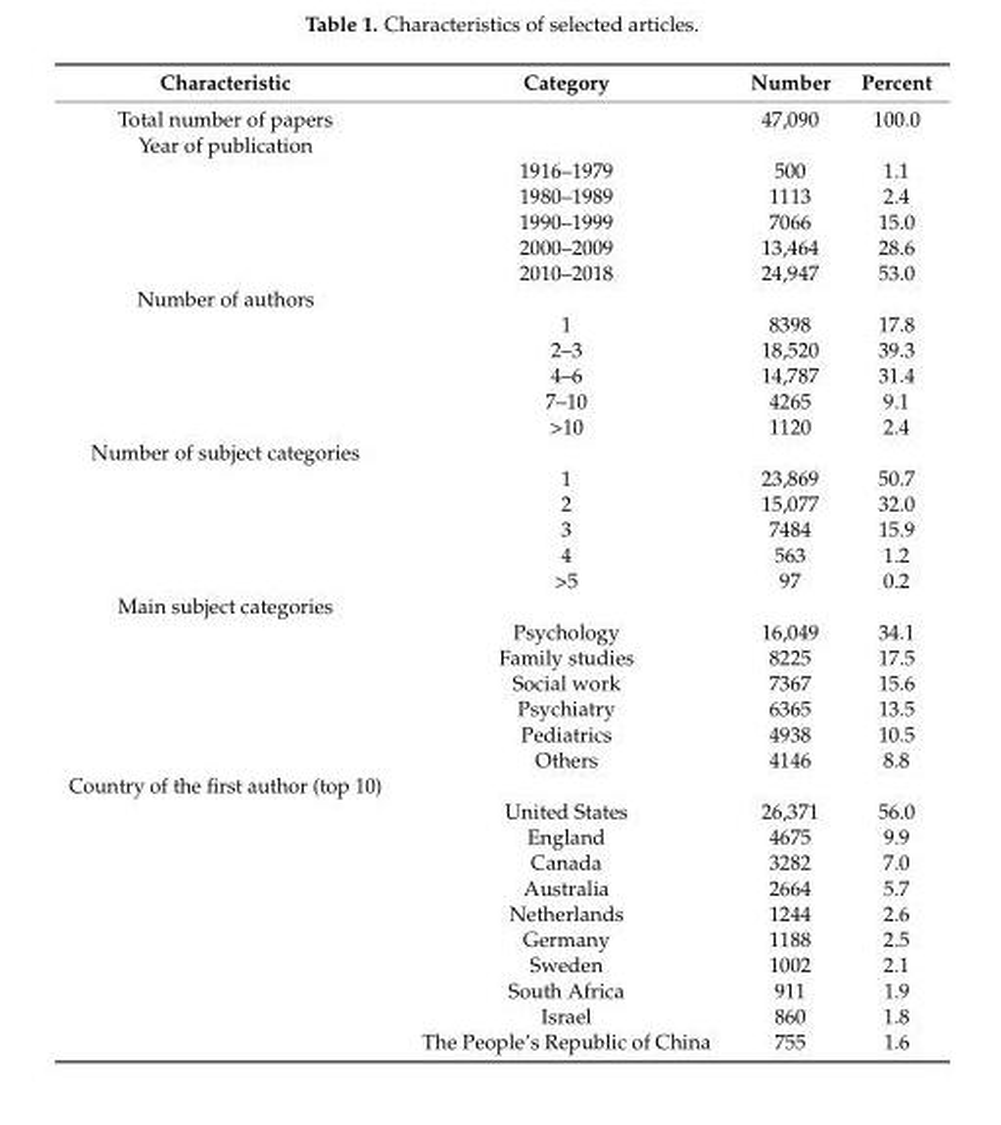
<table><thead><tr><td>Characteristic</td><td>Category</td><td>Number</td><td>Percent</td></tr></thead><tbody><tr><td>Total number of papers</td><td></td><td>47,090</td><td>100.0</td></tr><tr><td colspan="4">Year of publication</td></tr><tr><td></td><td>1916–1979</td><td>500</td><td>1.1</td></tr><tr><td></td><td>1980–1989</td><td>1113</td><td>2.4</td></tr><tr><td></td><td>1990–1999</td><td>7066</td><td>15.0</td></tr><tr><td></td><td>2000–2009</td><td>13,464</td><td>28.6</td></tr><tr><td></td><td>2010–2018</td><td>24,947</td><td>53.0</td></tr><tr><td colspan="4">Number of authors</td></tr><tr><td></td><td>1</td><td>8398</td><td>17.8</td></tr><tr><td></td><td>2–3</td><td>18,520</td><td>39.3</td></tr><tr><td></td><td>4–6</td><td>14,787</td><td>31.4</td></tr><tr><td></td><td>7–10</td><td>4265</td><td>9.1</td></tr><tr><td></td><td>&gt;10</td><td>1120</td><td>2.4</td></tr><tr><td colspan="4">Number of subject categories</td></tr><tr><td></td><td>1</td><td>23,869</td><td>50.7</td></tr><tr><td></td><td>2</td><td>15,077</td><td>32.0</td></tr><tr><td></td><td>3</td><td>7484</td><td>15.9</td></tr><tr><td></td><td>4</td><td>563</td><td>1.2</td></tr><tr><td></td><td>&gt;5</td><td>97</td><td>0.2</td></tr><tr><td colspan="4">Main subject categories</td></tr><tr><td></td><td>Psychology</td><td>16,049</td><td>34.1</td></tr><tr><td></td><td>Family studies</td><td>8225</td><td>17.5</td></tr><tr><td></td><td>Social work</td><td>7367</td><td>15.6</td></tr><tr><td></td><td>Psychiatry</td><td>6365</td><td>13.5</td></tr><tr><td></td><td>Pediatrics</td><td>4938</td><td>10.5</td></tr><tr><td></td><td>Others</td><td>4146</td><td>8.8</td></tr><tr><td colspan="4">Country of the first author (top 10)</td></tr><tr><td></td><td>United States</td><td>26,371</td><td>56.0</td></tr><tr><td></td><td>England</td><td>4675</td><td>9.9</td></tr><tr><td></td><td>Canada</td><td>3282</td><td>7.0</td></tr><tr><td></td><td>Australia</td><td>2664</td><td>5.7</td></tr><tr><td></td><td>Netherlands</td><td>1244</td><td>2.6</td></tr><tr><td></td><td>Germany</td><td>1188</td><td>2.5</td></tr><tr><td></td><td>Sweden</td><td>1002</td><td>2.1</td></tr><tr><td></td><td>South Africa</td><td>911</td><td>1.9</td></tr><tr><td></td><td>Israel</td><td>860</td><td>1.8</td></tr><tr><td></td><td>The People’s Republic of China</td><td>755</td><td>1.6</td></tr></tbody></table>